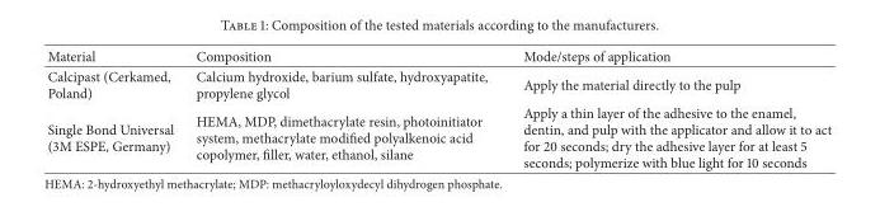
<table><thead><tr><td>Material</td><td>Composition</td><td>Mode/steps of application</td></tr></thead><tbody><tr><td>Calcipast (Cerkamed, Poland)</td><td>Calcium hydroxide, barium sulfate, hydroxyapatite, propylene glycol</td><td>Apply the material directly to the pulp</td></tr><tr><td>Single Bond Universal (3M ESPE, Germany)</td><td>HEMA, MDP, dimethacrylate resin, photoinitiator system, methacrylate modified polyalkenoic acid copolymer, filler, water, ethanol, silane</td><td>Apply a thin layer of the adhesive to the enamel, dentin, and pulp with the applicator and allow it to act for 20 seconds; dry the adhesive layer for at least 5 seconds; polymerize with blue light for 10 seconds</td></tr></tbody></table>